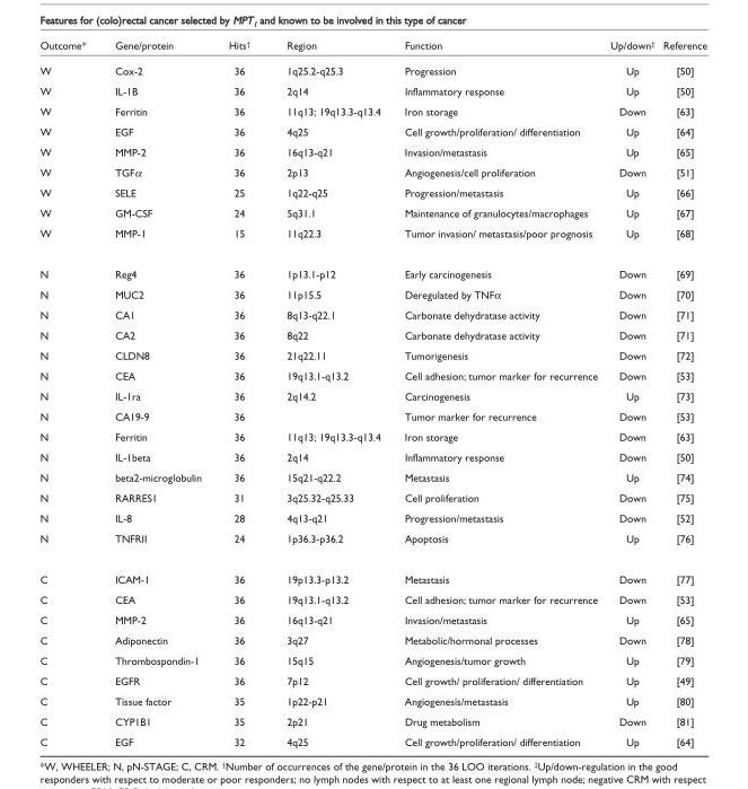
<table><thead><tr><td>Outcome*</td><td>Gene/protein</td><td>Hits<sup>†</sup></td><td>Region</td><td>Function</td><td>Up/down<sup>‡</sup></td><td>Reference</td></tr></thead><tbody><tr><td>W</td><td>Cox-2</td><td>36</td><td>1q25.2-q25.3</td><td>Progression</td><td>Up</td><td>[50]</td></tr><tr><td>W</td><td>IL-1B</td><td>36</td><td>2q14</td><td>Inflammatory response</td><td>Up</td><td>[50]</td></tr><tr><td>W</td><td>Ferritin</td><td>36</td><td>11q13; 19q13.3-q13.4</td><td>Iron storage</td><td>Down</td><td>[63]</td></tr><tr><td>W</td><td>EGF</td><td>36</td><td>4q25</td><td>Cell growth/proliferation/ differentiation</td><td>Up</td><td>[64]</td></tr><tr><td>W</td><td>MMP-2</td><td>36</td><td>16q13-q21</td><td>Invasion/metastasis</td><td>Up</td><td>[65]</td></tr><tr><td>W</td><td>TGFα</td><td>36</td><td>2p13</td><td>Angiogenesis/cell proliferation</td><td>Down</td><td>[51]</td></tr><tr><td>W</td><td>SELE</td><td>25</td><td>1q22-q25</td><td>Progression/metastasis</td><td>Up</td><td>[66]</td></tr><tr><td>W</td><td>GM-CSF</td><td>24</td><td>5q31.1</td><td>Maintenance of granulocytes/macrophages</td><td>Up</td><td>[67]</td></tr><tr><td>W</td><td>MMP-1</td><td>15</td><td>11q22.3</td><td>Tumor invasion/ metastasis/poor prognosis</td><td>Up</td><td>[68]</td></tr><tr><td>N</td><td>Reg4</td><td>36</td><td>1p13.1-p12</td><td>Early carcinogenesis</td><td>Down</td><td>[69]</td></tr><tr><td>N</td><td>MUC2</td><td>36</td><td>11p15.5</td><td>Deregulated by TNFα</td><td>Down</td><td>[70]</td></tr><tr><td>N</td><td>CA1</td><td>36</td><td>8q13-q22.1</td><td>Carbonate dehydratase activity</td><td>Down</td><td>[71]</td></tr><tr><td>N</td><td>CA2</td><td>36</td><td>8q22</td><td>Carbonate dehydratase activity</td><td>Down</td><td>[71]</td></tr><tr><td>N</td><td>CLDN8</td><td>36</td><td>21q22.11</td><td>Tumorigenesis</td><td>Down</td><td>[72]</td></tr><tr><td>N</td><td>CEA</td><td>36</td><td>19q13.1-q13.2</td><td>Cell adhesion; tumor marker for recurrence</td><td>Down</td><td>[53]</td></tr><tr><td>N</td><td>IL-1ra</td><td>36</td><td>2q14.2</td><td>Carcinogenesis</td><td>Up</td><td>[73]</td></tr><tr><td>N</td><td>CA19-9</td><td>36</td><td></td><td>Tumor marker for recurrence</td><td>Down</td><td>[53]</td></tr><tr><td>N</td><td>Ferritin</td><td>36</td><td>11q13; 19q13.3-q13.4</td><td>Iron storage</td><td>Down</td><td>[63]</td></tr><tr><td>N</td><td>IL-1beta</td><td>36</td><td>2q14</td><td>Inflammatory response</td><td>Down</td><td>[50]</td></tr><tr><td>N</td><td>beta2-microglobulin</td><td>36</td><td>15q21-q22.2</td><td>Metastasis</td><td>Up</td><td>[74]</td></tr><tr><td>N</td><td>RARRES1</td><td>31</td><td>3q25.32-q25.33</td><td>Cell proliferation</td><td>Down</td><td>[75]</td></tr><tr><td>N</td><td>IL-8</td><td>28</td><td>4q13-q21</td><td>Progression/metastasis</td><td>Down</td><td>[52]</td></tr><tr><td>N</td><td>TNFRII</td><td>24</td><td>1p36.3-p36.2</td><td>Apoptosis</td><td>Up</td><td>[76]</td></tr><tr><td>C</td><td>ICAM-1</td><td>36</td><td>19p13.3-p13.2</td><td>Metastasis</td><td>Down</td><td>[77]</td></tr><tr><td>C</td><td>CEA</td><td>36</td><td>19q13.1-q13.2</td><td>Cell adhesion; tumor marker for recurrence</td><td>Down</td><td>[53]</td></tr><tr><td>C</td><td>MMP-2</td><td>36</td><td>16q13-q21</td><td>Invasion/metastasis</td><td>Up</td><td>[65]</td></tr><tr><td>C</td><td>Adiponectin</td><td>36</td><td>3q27</td><td>Metabolic/hormonal processes</td><td>Down</td><td>[78]</td></tr><tr><td>C</td><td>Thrombospondin-1</td><td>36</td><td>15q15</td><td>Angiogenesis/tumor growth</td><td>Up</td><td>[79]</td></tr><tr><td>C</td><td>EGFR</td><td>36</td><td>7p12</td><td>Cell growth/ proliferation/ differentiation</td><td>Up</td><td>[49]</td></tr><tr><td>C</td><td>Tissue factor</td><td>35</td><td>1p22-p21</td><td>Angiogenesis/metastasis</td><td>Up</td><td>[80]</td></tr><tr><td>C</td><td>CYP1B1</td><td>35</td><td>2p21</td><td>Drug metabolism</td><td>Down</td><td>[81]</td></tr><tr><td>C</td><td>EGF</td><td>32</td><td>4q25</td><td>Cell growth/proliferation/ differentiation</td><td>Up</td><td>[64]</td></tr></tbody></table>